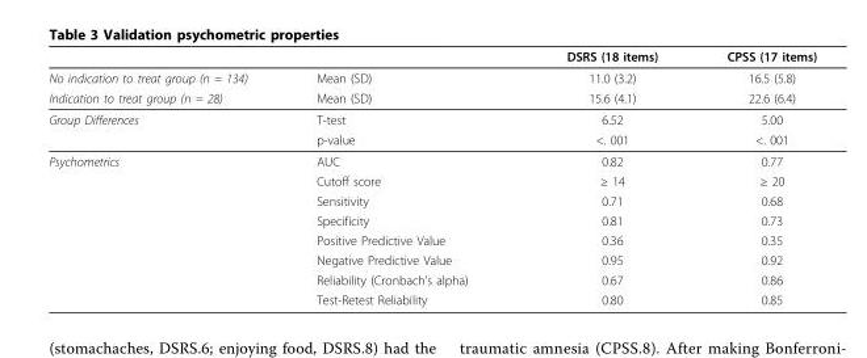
<table><thead><tr><td></td><td></td><td>DSRS (18 items)</td><td>CPSS (17 items)</td></tr></thead><tbody><tr><td>No indication to treat group (n = 134)</td><td>Mean (SD)</td><td>11.0 (3.2)</td><td>16.5 (5.8)</td></tr><tr><td>Indication to treat group (n = 28)</td><td>Mean (SD)</td><td>15.6 (4.1)</td><td>22.6 (6.4)</td></tr><tr><td rowspan="2">Group Differences</td><td>T-test</td><td>6.52</td><td>5.00</td></tr><tr><td>p-value</td><td>&lt;. 001</td><td>&lt;. 001</td></tr><tr><td rowspan="8">Psychometrics</td><td>AUC</td><td>0.82</td><td>0.77</td></tr><tr><td>Cutoff score</td><td>≥ 14</td><td>≥ 20</td></tr><tr><td>Sensitivity</td><td>0.71</td><td>0.68</td></tr><tr><td>Specificity</td><td>0.81</td><td>0.73</td></tr><tr><td>Positive Predictive Value</td><td>0.36</td><td>0.35</td></tr><tr><td>Negative Predictive Value</td><td>0.95</td><td>0.92</td></tr><tr><td>Reliability (Cronbach’s alpha)</td><td>0.67</td><td>0.86</td></tr><tr><td>Test-Retest Reliability</td><td>0.80</td><td>0.85</td></tr></tbody></table>